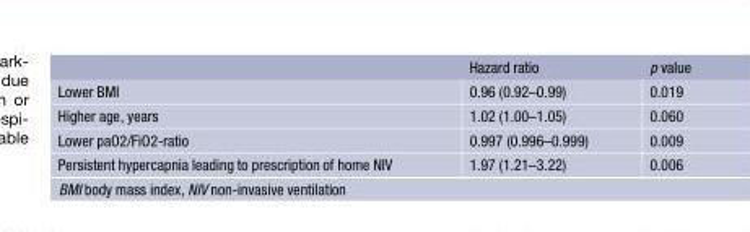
<table><thead><tr><td></td><td>Hazard ratio</td><td>p value</td></tr></thead><tbody><tr><td>Lower BMI</td><td>0.96 (0.92–0.99)</td><td>0.019</td></tr><tr><td>Higher age, years</td><td>1.02 (1.00–1.05)</td><td>0.060</td></tr><tr><td>Lower paO2/FiO2-ratio</td><td>0.997 (0.996–0.999)</td><td>0.009</td></tr><tr><td>Persistent hypercapnia leading to prescription of home NIV</td><td>1.97 (1.21–3.22)</td><td>0.006</td></tr></tbody></table>